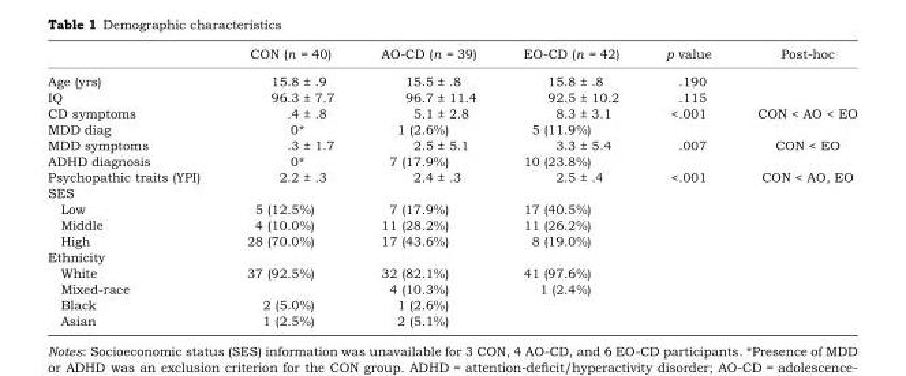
<table><thead><tr><td></td><td>CON (n = 40)</td><td>AO-CD (n = 39)</td><td>EO-CD (n = 42)</td><td>p value</td><td>Post-hoc</td></tr></thead><tbody><tr><td>Age (yrs)</td><td>15.8 ± .9</td><td>15.5 ± .8</td><td>15.8 ± .8</td><td>.190</td><td></td></tr><tr><td>IQ</td><td>96.3 ± 7.7</td><td>96.7 ± 11.4</td><td>92.5 ± 10.2</td><td>.115</td><td></td></tr><tr><td>CD symptoms</td><td>.4 ± .8</td><td>5.1 ± 2.8</td><td>8.3 ± 3.1</td><td>&lt;.001</td><td>CON &lt; AO &lt; EO</td></tr><tr><td>MDD diag</td><td>0*</td><td>1 (2.6%)</td><td>5 (11.9%)</td><td></td><td></td></tr><tr><td>MDD symptoms</td><td>.3 ± 1.7</td><td>2.5 ± 5.1</td><td>3.3 ± 5.4</td><td>.007</td><td>CON &lt; EO</td></tr><tr><td>ADHD diagnosis</td><td>0*</td><td>7 (17.9%)</td><td>10 (23.8%)</td><td></td><td></td></tr><tr><td>Psychopathic traits (YPI)</td><td>2.2 ± .3</td><td>2.4 ± .3</td><td>2.5 ± .4</td><td>&lt;.001</td><td>CON &lt; AO, EO</td></tr><tr><td colspan="6">SES</td></tr><tr><td>Low</td><td>5 (12.5%)</td><td>7 (17.9%)</td><td>17 (40.5%)</td><td></td><td></td></tr><tr><td>Middle</td><td>4 (10.0%)</td><td>11 (28.2%)</td><td>11 (26.2%)</td><td></td><td></td></tr><tr><td>High</td><td>28 (70.0%)</td><td>17 (43.6%)</td><td>8 (19.0%)</td><td></td><td></td></tr><tr><td colspan="6">Ethnicity</td></tr><tr><td>White</td><td>37 (92.5%)</td><td>32 (82.1%)</td><td>41 (97.6%)</td><td></td><td></td></tr><tr><td>Mixed-race</td><td></td><td>4 (10.3%)</td><td>1 (2.4%)</td><td></td><td></td></tr><tr><td>Black</td><td>2 (5.0%)</td><td>1 (2.6%)</td><td></td><td></td><td></td></tr><tr><td>Asian</td><td>1 (2.5%)</td><td>2 (5.1%)</td><td></td><td></td><td></td></tr></tbody></table>